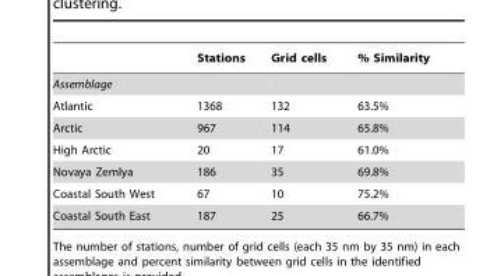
<table><thead><tr><td></td><td>Stations</td><td>Grid cells</td><td>% Similarity</td></tr></thead><tbody><tr><td colspan="4">Assemblage</td></tr><tr><td>Atlantic</td><td>1368</td><td>132</td><td>63.5%</td></tr><tr><td>Arctic</td><td>967</td><td>114</td><td>65.8%</td></tr><tr><td>High Arctic</td><td>20</td><td>17</td><td>61.0%</td></tr><tr><td>Novaya Zemlya</td><td>186</td><td>35</td><td>69.8%</td></tr><tr><td>Coastal South West</td><td>67</td><td>10</td><td>75.2%</td></tr><tr><td>Coastal South East</td><td>187</td><td>25</td><td>66.7%</td></tr></tbody></table>